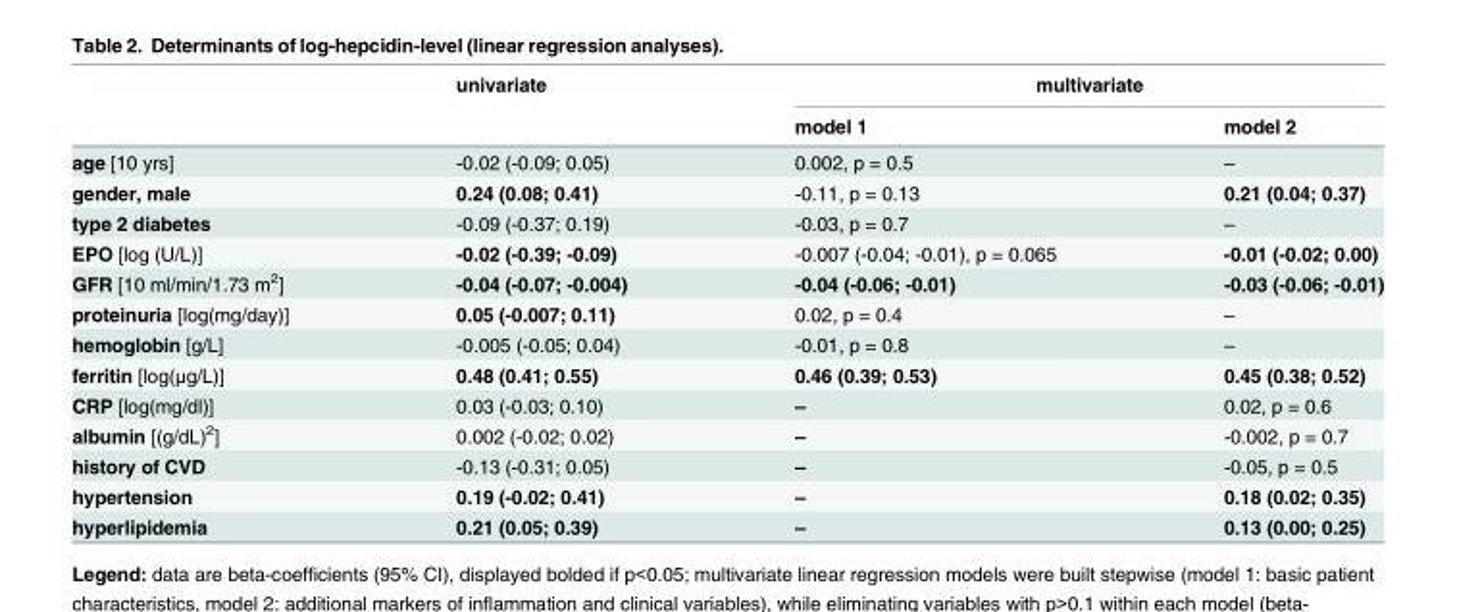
<table><thead><tr><td rowspan="2"></td><td rowspan="2">univariate</td><td colspan="2">multivariate</td></tr><tr><td>model 1</td><td>model 2</td></tr></thead><tbody><tr><td>age [10 yrs]</td><td>-0.02 (-0.09; 0.05)</td><td>0.002, p = 0.5</td><td>–</td></tr><tr><td>gender, male</td><td>0.24 (0.08; 0.41)</td><td>-0.11, p = 0.13</td><td>0.21 (0.04; 0.37)</td></tr><tr><td>type 2 diabetes</td><td>-0.09 (-0.37; 0.19)</td><td>-0.03, p = 0.7</td><td>–</td></tr><tr><td>EPO [log (U/L)]</td><td>-0.02 (-0.39; -0.09)</td><td>-0.007 (-0.04; -0.01), p = 0.065</td><td>-0.01 (-0.02; 0.00)</td></tr><tr><td>GFR [10 ml/min/1.73 m<sup>2</sup>]</td><td>-0.04 (-0.07; -0.004)</td><td>-0.04 (-0.06; -0.01)</td><td>-0.03 (-0.06; -0.01)</td></tr><tr><td>proteinuria [log(mg/day)]</td><td>0.05 (-0.007; 0.11)</td><td>0.02, p = 0.4</td><td>–</td></tr><tr><td>hemoglobin [g/L]</td><td>-0.005 (-0.05; 0.04)</td><td>-0.01, p = 0.8</td><td>–</td></tr><tr><td>ferritin [log(μg/L)]</td><td>0.48 (0.41; 0.55)</td><td>0.46 (0.39; 0.53)</td><td>0.45 (0.38; 0.52)</td></tr><tr><td>CRP [log(mg/dl)]</td><td>0.03 (-0.03; 0.10)</td><td>–</td><td>0.02, p = 0.6</td></tr><tr><td>albumin [(g/dL)<sup>2</sup>]</td><td>0.002 (-0.02; 0.02)</td><td>–</td><td>-0.002, p = 0.7</td></tr><tr><td>history of CVD</td><td>-0.13 (-0.31; 0.05)</td><td>–</td><td>-0.05, p = 0.5</td></tr><tr><td>hypertension</td><td>0.19 (-0.02; 0.41)</td><td>–</td><td>0.18 (0.02; 0.35)</td></tr><tr><td>hyperlipidemia</td><td>0.21 (0.05; 0.39)</td><td>–</td><td>0.13 (0.00; 0.25)</td></tr></tbody></table>